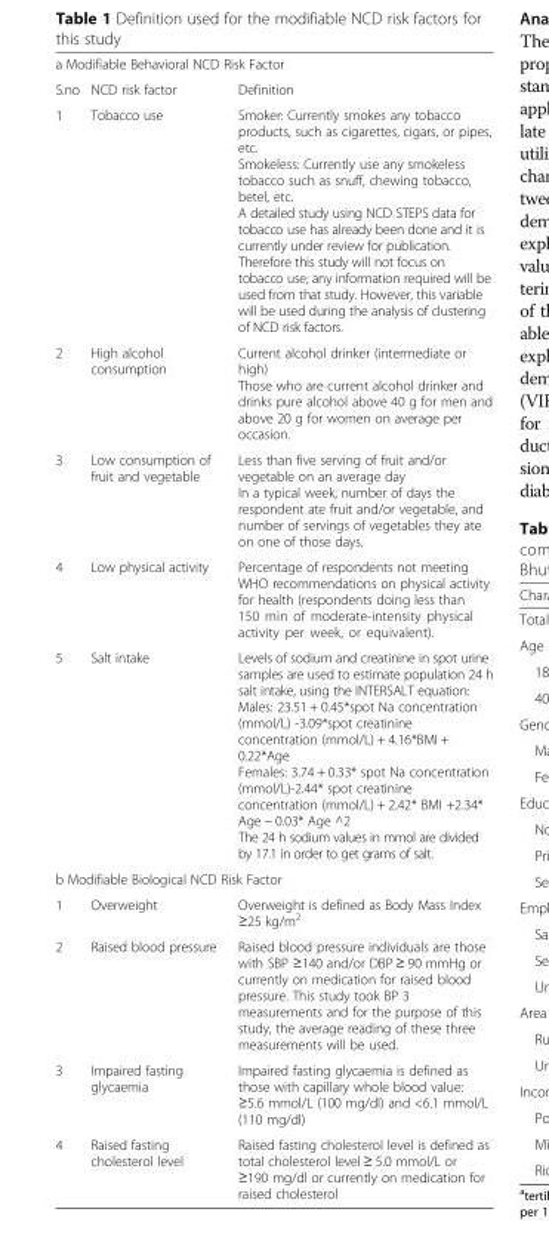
<table><tbody><tr><td colspan="3">a Modifiable Behavioral NCD Risk Factor</td></tr><tr><td>S.no</td><td>NCD risk factor</td><td>Definition</td></tr><tr><td>1</td><td>Tobacco use</td><td>Smoker: Currently smokes any tobacco products, such as cigarettes, cigars, or pipes, etc. Smokeless: Currently use any smokeless tobacco such as snuff, chewing tobacco, betel, etc. A detailed study using NCD STEPS data for tobacco use has already been done and it is currently under review for publication. Therefore this study will not focus on tobacco use; any information required will be used from that study. However, this variable will be used during the analysis of clustering of NCD risk factors.</td></tr><tr><td>2</td><td>High alcohol consumption</td><td>Current alcohol drinker (intermediate or high) Those who are current alcohol drinker and drinks pure alcohol above 40 g for men and above 20 g for women on average per occasion.</td></tr><tr><td>3</td><td>Low consumption of fruit and vegetable</td><td>Less than five serving of fruit and/or vegetable on an average day In a typical week, number of days the respondent ate fruit and/or vegetable, and number of servings of vegetables they ate on one of those days.</td></tr><tr><td>4</td><td>Low physical activity</td><td>Percentage of respondents not meeting WHO recommendations on physical activity for health (respondents doing less than 150 min of moderate-intensity physical activity per week, or equivalent).</td></tr><tr><td>5</td><td>Salt intake</td><td>Levels of sodium and creatinine in spot urine samples are used to estimate population 24 h salt intake, using the INTERSALT equation: Males: 23.51 + 0.45*spot Na concentration (mmol/L) -3.09*spot creatinine concentration (mmol/L) + 4.16*BMI + 0.22*Age Females: 3.74 + 0.33* spot Na concentration (mmol/L)-2.44* spot creatinine concentration (mmol/L) + 2.42* BMI +2.34* Age − 0.03* Age ^2 The 24 h sodium values in mmol are divided by 17.1 in order to get grams of salt.</td></tr><tr><td colspan="3">b Modifiable Biological NCD Risk Factor</td></tr><tr><td>1</td><td>Overweight</td><td>Overweight is defined as Body Mass Index ≥25 kg/m<sup>2</sup></td></tr><tr><td>2</td><td>Raised blood pressure</td><td>Raised blood pressure individuals are those with SBP ≥140 and/or DBP ≥ 90 mmHg or currently on medication for raised blood pressure. This study took BP 3 measurements and for the purpose of this study, the average reading of these three measurements will be used.</td></tr><tr><td>3</td><td>Impaired fasting glycaemia</td><td>Impaired fasting glycaemia is defined as those with capillary whole blood value: ≥5.6 mmol/L (100 mg/dl) and &lt;6.1 mmol/L (110 mg/dl)</td></tr><tr><td>4</td><td>Raised fasting cholesterol level</td><td>Raised fasting cholesterol level is defined as total cholesterol level ≥ 5.0 mmol/L or ≥190 mg/dl or currently on medication for raised cholesterol</td></tr></tbody></table>